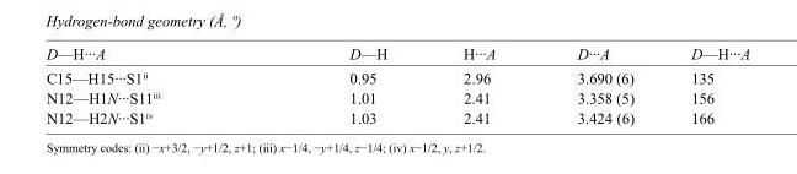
<table><tbody><tr><td>D—H···A</td><td>D—H</td><td>H···A</td><td>D···A</td><td>D—H···A</td></tr><tr><td>C15—H15···S1<sup>ii</sup></td><td>0.95</td><td>2.96</td><td>3.690 (6)</td><td>135</td></tr><tr><td>N12—H1N···S11<sup>iii</sup></td><td>1.01</td><td>2.41</td><td>3.358 (5)</td><td>156</td></tr><tr><td>N12—H2N···S1<sup>iv</sup></td><td>1.03</td><td>2.41</td><td>3.424 (6)</td><td>166</td></tr></tbody></table>